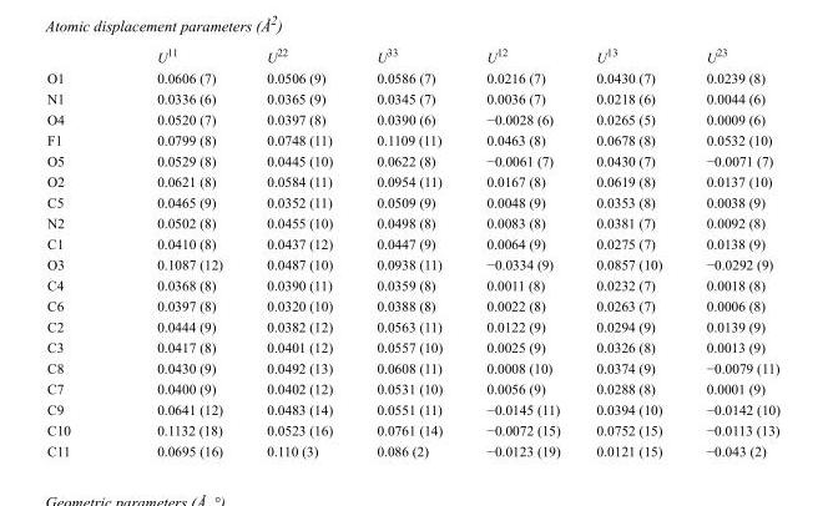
<table><thead><tr><td></td><td>U<sup>11</sup></td><td>U<sup>22</sup></td><td>U<sup>33</sup></td><td>U<sup>12</sup></td><td>U<sup>13</sup></td><td>U<sup>23</sup></td></tr></thead><tbody><tr><td>O1</td><td>0.0606 (7)</td><td>0.0506 (9)</td><td>0.0586 (7)</td><td>0.0216 (7)</td><td>0.0430 (7)</td><td>0.0239 (8)</td></tr><tr><td>N1</td><td>0.0336 (6)</td><td>0.0365 (9)</td><td>0.0345 (7)</td><td>0.0036 (7)</td><td>0.0218 (6)</td><td>0.0044 (6)</td></tr><tr><td>O4</td><td>0.0520 (7)</td><td>0.0397 (8)</td><td>0.0390 (6)</td><td>−0.0028 (6)</td><td>0.0265 (5)</td><td>0.0009 (6)</td></tr><tr><td>F1</td><td>0.0799 (8)</td><td>0.0748 (11)</td><td>0.1109 (11)</td><td>0.0463 (8)</td><td>0.0678 (8)</td><td>0.0532 (10)</td></tr><tr><td>O5</td><td>0.0529 (8)</td><td>0.0445 (10)</td><td>0.0622 (8)</td><td>−0.0061 (7)</td><td>0.0430 (7)</td><td>−0.0071 (7)</td></tr><tr><td>O2</td><td>0.0621 (8)</td><td>0.0584 (11)</td><td>0.0954 (11)</td><td>0.0167 (8)</td><td>0.0619 (8)</td><td>0.0137 (10)</td></tr><tr><td>C5</td><td>0.0465 (9)</td><td>0.0352 (11)</td><td>0.0509 (9)</td><td>0.0048 (9)</td><td>0.0353 (8)</td><td>0.0038 (9)</td></tr><tr><td>N2</td><td>0.0502 (8)</td><td>0.0455 (10)</td><td>0.0498 (8)</td><td>0.0083 (8)</td><td>0.0381 (7)</td><td>0.0092 (8)</td></tr><tr><td>C1</td><td>0.0410 (8)</td><td>0.0437 (12)</td><td>0.0447 (9)</td><td>0.0064 (9)</td><td>0.0275 (7)</td><td>0.0138 (9)</td></tr><tr><td>O3</td><td>0.1087 (12)</td><td>0.0487 (10)</td><td>0.0938 (11)</td><td>−0.0334 (9)</td><td>0.0857 (10)</td><td>−0.0292 (9)</td></tr><tr><td>C4</td><td>0.0368 (8)</td><td>0.0390 (11)</td><td>0.0359 (8)</td><td>0.0011 (8)</td><td>0.0232 (7)</td><td>0.0018 (8)</td></tr><tr><td>C6</td><td>0.0397 (8)</td><td>0.0320 (10)</td><td>0.0388 (8)</td><td>0.0022 (8)</td><td>0.0263 (7)</td><td>0.0006 (8)</td></tr><tr><td>C2</td><td>0.0444 (9)</td><td>0.0382 (12)</td><td>0.0563 (11)</td><td>0.0122 (9)</td><td>0.0294 (9)</td><td>0.0139 (9)</td></tr><tr><td>C3</td><td>0.0417 (8)</td><td>0.0401 (12)</td><td>0.0557 (10)</td><td>0.0025 (9)</td><td>0.0326 (8)</td><td>0.0013 (9)</td></tr><tr><td>C8</td><td>0.0430 (9)</td><td>0.0492 (13)</td><td>0.0608 (11)</td><td>0.0008 (10)</td><td>0.0374 (9)</td><td>−0.0079 (11)</td></tr><tr><td>C7</td><td>0.0400 (9)</td><td>0.0402 (12)</td><td>0.0531 (10)</td><td>0.0056 (9)</td><td>0.0288 (8)</td><td>0.0001 (9)</td></tr><tr><td>C9</td><td>0.0641 (12)</td><td>0.0483 (14)</td><td>0.0551 (11)</td><td>−0.0145 (11)</td><td>0.0394 (10)</td><td>−0.0142 (10)</td></tr><tr><td>C10</td><td>0.1132 (18)</td><td>0.0523 (16)</td><td>0.0761 (14)</td><td>−0.0072 (15)</td><td>0.0752 (15)</td><td>−0.0113 (13)</td></tr><tr><td>C11</td><td>0.0695 (16)</td><td>0.110 (3)</td><td>0.086 (2)</td><td>−0.0123 (19)</td><td>0.0121 (15)</td><td>−0.043 (2)</td></tr></tbody></table>